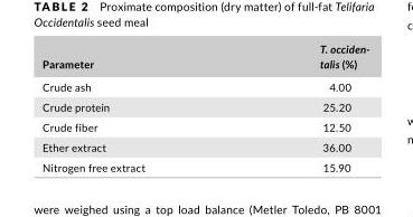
<table><thead><tr><td>Parameter</td><td>T. occiden- talis (%)</td></tr></thead><tbody><tr><td>Crude ash</td><td>4.00</td></tr><tr><td>Crude protein</td><td>25.20</td></tr><tr><td>Crude fiber</td><td>12.50</td></tr><tr><td>Ether extract</td><td>36.00</td></tr><tr><td>Nitrogen free extract</td><td>15.90</td></tr></tbody></table>